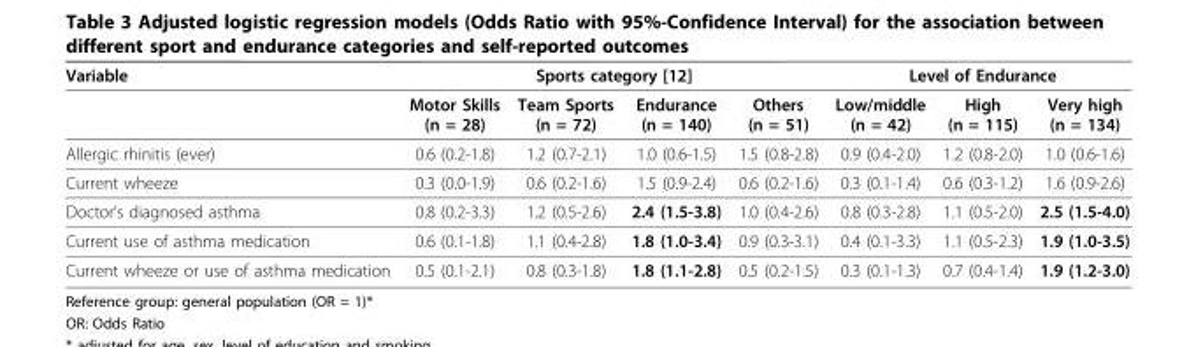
<table><thead><tr><td rowspan="2">Variable</td><td colspan="4">Sports category [12]</td><td colspan="3">Level of Endurance</td></tr><tr><td>Motor Skills (n = 28)</td><td>Team Sports (n = 72)</td><td>Endurance (n = 140)</td><td>Others (n = 51)</td><td>Low/middle (n = 42)</td><td>High (n = 115)</td><td>Very high (n = 134)</td></tr></thead><tbody><tr><td>Allergic rhinitis (ever)</td><td>0.6 (0.2-1.8)</td><td>1.2 (0.7-2.1)</td><td>1.0 (0.6-1.5)</td><td>1.5 (0.8-2.8)</td><td>0.9 (0.4-2.0)</td><td>1.2 (0.8-2.0)</td><td>1.0 (0.6-1.6)</td></tr><tr><td>Current wheeze</td><td>0.3 (0.0-1.9)</td><td>0.6 (0.2-1.6)</td><td>1.5 (0.9-2.4)</td><td>0.6 (0.2-1.6)</td><td>0.3 (0.1-1.4)</td><td>0.6 (0.3-1.2)</td><td>1.6 (0.9-2.6)</td></tr><tr><td>Doctor’s diagnosed asthma</td><td>0.8 (0.2-3.3)</td><td>1.2 (0.5-2.6)</td><td>2.4 (1.5-3.8)</td><td>1.0 (0.4-2.6)</td><td>0.8 (0.3-2.8)</td><td>1.1 (0.5-2.0)</td><td>2.5 (1.5-4.0)</td></tr><tr><td>Current use of asthma medication</td><td>0.6 (0.1-1.8)</td><td>1.1 (0.4-2.8)</td><td>1.8 (1.0-3.4)</td><td>0.9 (0.3-3.1)</td><td>0.4 (0.1-3.3)</td><td>1.1 (0.5-2.3)</td><td>1.9 (1.0-3.5)</td></tr><tr><td>Current wheeze or use of asthma medication</td><td>0.5 (0.1-2.1)</td><td>0.8 (0.3-1.8)</td><td>1.8 (1.1-2.8)</td><td>0.5 (0.2-1.5)</td><td>0.3 (0.1-1.3)</td><td>0.7 (0.4-1.4)</td><td>1.9 (1.2-3.0)</td></tr></tbody></table>